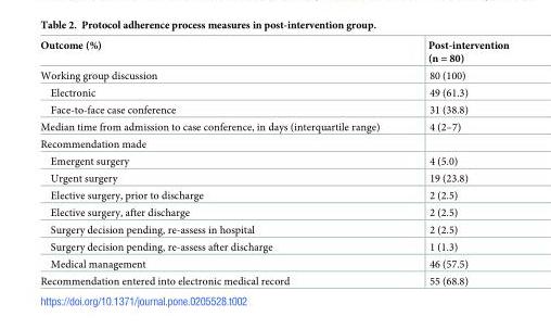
<table><thead><tr><td>Outcome (%)</td><td>Post-intervention (n = 80)</td></tr></thead><tbody><tr><td>Working group discussion</td><td>80 (100)</td></tr><tr><td>Electronic</td><td>49 (61.3)</td></tr><tr><td>Face-to-face case conference</td><td>31 (38.8)</td></tr><tr><td>Median time from admission to case conference, in days (interquartile range)</td><td>4 (2–7)</td></tr><tr><td colspan="2">Recommendation made</td></tr><tr><td>Emergent surgery</td><td>4 (5.0)</td></tr><tr><td>Urgent surgery</td><td>19 (23.8)</td></tr><tr><td>Elective surgery, prior to discharge</td><td>2 (2.5)</td></tr><tr><td>Elective surgery, after discharge</td><td>2 (2.5)</td></tr><tr><td>Surgery decision pending, re-assess in hospital</td><td>2 (2.5)</td></tr><tr><td>Surgery decision pending, re-assess after discharge</td><td>1 (1.3)</td></tr><tr><td>Medical management</td><td>46 (57.5)</td></tr><tr><td>Recommendation entered into electronic medical record</td><td>55 (68.8)</td></tr></tbody></table>